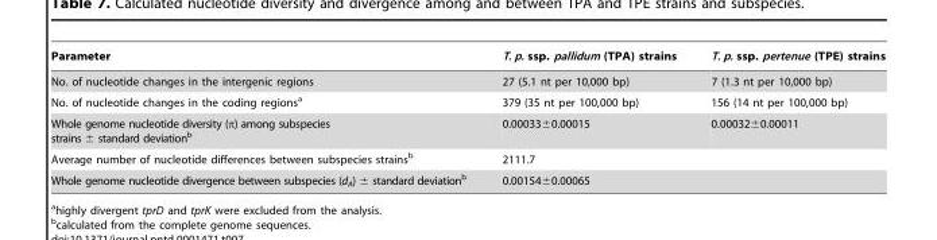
<table><thead><tr><td>Parameter</td><td>T. p. ssp. pallidum (TPA) strains</td><td>T. p. ssp. pertenue (TPE) strains</td></tr></thead><tbody><tr><td>No. of nucleotide changes in the intergenic regions</td><td>27 (5.1 nt per 10,000 bp)</td><td>7 (1.3 nt per 10,000 bp)</td></tr><tr><td>No. of nucleotide changes in the coding regions<sup>a</sup></td><td>379 (35 nt per 100,000 bp)</td><td>156 (14 nt per 100,000 bp)</td></tr><tr><td>Whole genome nucleotide diversity (π) among subspecies strains ± standard deviation<sup>b</sup></td><td>0.00033±0.00015</td><td>0.00032±0.00011</td></tr><tr><td>Average number of nucleotide differences between subspecies strains<sup>b</sup></td><td colspan="2">2111.7</td></tr><tr><td>Whole genome nucleotide divergence between subspecies (d<sub>A</sub>) ± standard deviation<sup>b</sup></td><td colspan="2">0.00154±0.00065</td></tr></tbody></table>